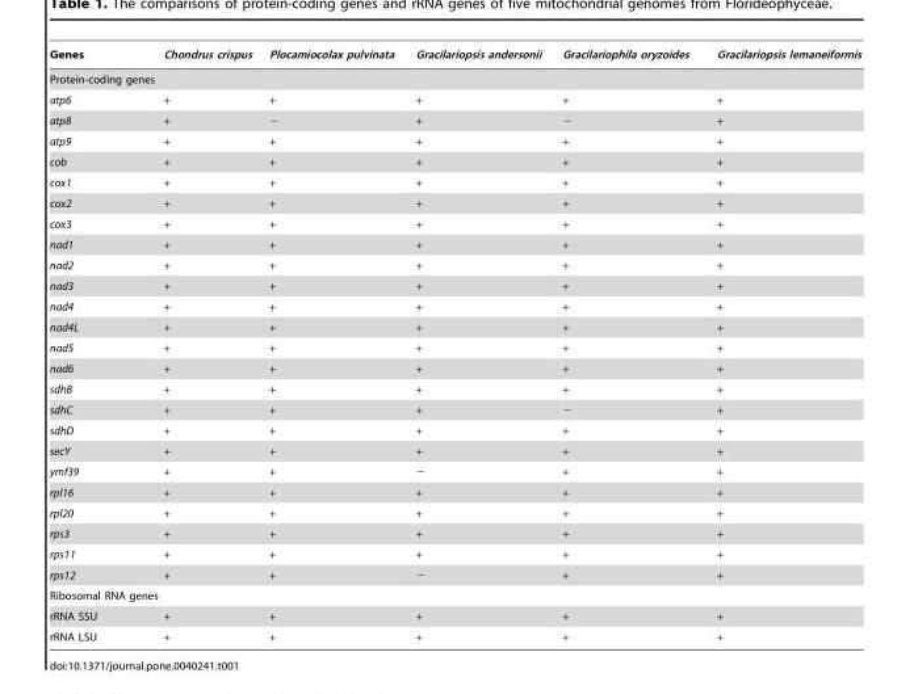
<table><thead><tr><td>Genes</td><td>Chondrus crispus</td><td>Plocamiocolax pulvinata</td><td>Gracilariopsis andersonii</td><td>Gracilariophila oryzoides</td><td>Gracilariopsis lemaneiformis</td></tr></thead><tbody><tr><td colspan="6">Protein-coding genes</td></tr><tr><td>atp6</td><td>+</td><td>+</td><td>+</td><td>+</td><td>+</td></tr><tr><td>atp8</td><td>+</td><td>−</td><td>+</td><td>−</td><td>+</td></tr><tr><td>atp9</td><td>+</td><td>+</td><td>+</td><td>+</td><td>+</td></tr><tr><td>cob</td><td>+</td><td>+</td><td>+</td><td>+</td><td>+</td></tr><tr><td>cox1</td><td>+</td><td>+</td><td>+</td><td>+</td><td>+</td></tr><tr><td>cox2</td><td>+</td><td>+</td><td>+</td><td>+</td><td>+</td></tr><tr><td>cox3</td><td>+</td><td>+</td><td>+</td><td>+</td><td>+</td></tr><tr><td>nad1</td><td>+</td><td>+</td><td>+</td><td>+</td><td>+</td></tr><tr><td>nad2</td><td>+</td><td>+</td><td>+</td><td>+</td><td>+</td></tr><tr><td>nad3</td><td>+</td><td>+</td><td>+</td><td>+</td><td>+</td></tr><tr><td>nad4</td><td>+</td><td>+</td><td>+</td><td>+</td><td>+</td></tr><tr><td>nad4L</td><td>+</td><td>+</td><td>+</td><td>+</td><td>+</td></tr><tr><td>nad5</td><td>+</td><td>+</td><td>+</td><td>+</td><td>+</td></tr><tr><td>nad6</td><td>+</td><td>+</td><td>+</td><td>+</td><td>+</td></tr><tr><td>sdhB</td><td>+</td><td>+</td><td>+</td><td>+</td><td>+</td></tr><tr><td>sdhC</td><td>+</td><td>+</td><td>+</td><td>−</td><td>+</td></tr><tr><td>sdhD</td><td>+</td><td>+</td><td>+</td><td>+</td><td>+</td></tr><tr><td>secY</td><td>+</td><td>+</td><td>+</td><td>+</td><td>+</td></tr><tr><td>ymf39</td><td>+</td><td>+</td><td>−</td><td>+</td><td>+</td></tr><tr><td>rpl16</td><td>+</td><td>+</td><td>+</td><td>+</td><td>+</td></tr><tr><td>rpl20</td><td>+</td><td>+</td><td>+</td><td>+</td><td>+</td></tr><tr><td>rps3</td><td>+</td><td>+</td><td>+</td><td>+</td><td>+</td></tr><tr><td>rps11</td><td>+</td><td>+</td><td>+</td><td>+</td><td>+</td></tr><tr><td>rps12</td><td>+</td><td>+</td><td>−</td><td>+</td><td>+</td></tr><tr><td colspan="6">Ribosomal RNA genes</td></tr><tr><td>rRNA SSU</td><td>+</td><td>+</td><td>+</td><td>+</td><td>+</td></tr><tr><td>rRNA LSU</td><td>+</td><td>+</td><td>+</td><td>+</td><td>+</td></tr></tbody></table>